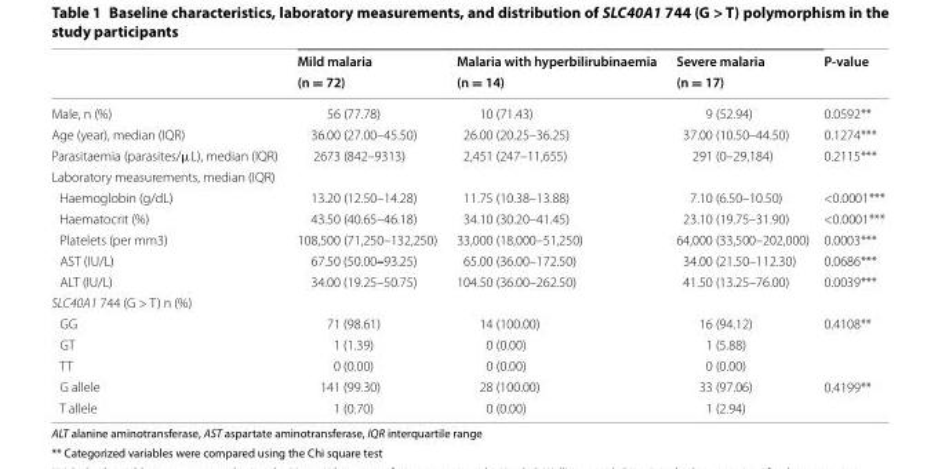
<table><thead><tr><td rowspan="2"></td><td rowspan="2">Mild malaria (n = 72)</td><td rowspan="2">Malaria with hyperbilirubinaemia (n = 14)</td><td rowspan="2">Severe malaria (n = 17)</td><td rowspan="2">P‑value</td></tr><tr></tr></thead><tbody><tr><td>Male, n (%)</td><td>56 (77.78)</td><td>10 (71.43)</td><td>9 (52.94)</td><td>0.0592**</td></tr><tr><td>Age (year), median (IQR)</td><td>36.00 (27.00–45.50)</td><td>26.00 (20.25–36.25)</td><td>37.00 (10.50–44.50)</td><td>0.1274***</td></tr><tr><td>Parasitaemia (parasites/μL), median (IQR)</td><td>2673 (842–9313)</td><td>2,451 (247–11,655)</td><td>291 (0–29,184)</td><td>0.2115***</td></tr><tr><td colspan="5">Laboratory measurements, median (IQR)</td></tr><tr><td>Haemoglobin (g/dL)</td><td>13.20 (12.50–14.28)</td><td>11.75 (10.38–13.88)</td><td>7.10 (6.50–10.50)</td><td>&lt;0.0001***</td></tr><tr><td>Haematocrit (%)</td><td>43.50 (40.65–46.18)</td><td>34.10 (30.20–41.45)</td><td>23.10 (19.75–31.90)</td><td>&lt;0.0001***</td></tr><tr><td>Platelets (per mm3)</td><td>108,500 (71,250–132,250)</td><td>33,000 (18,000–51,250)</td><td>64,000 (33,500–202,000)</td><td>0.0003***</td></tr><tr><td>AST (IU/L)</td><td>67.50 (50.00–93.25)</td><td>65.00 (36.00–172.50)</td><td>34.00 (21.50–112.30)</td><td>0.0686***</td></tr><tr><td>ALT (IU/L)</td><td>34.00 (19.25–50.75)</td><td>104.50 (36.00–262.50)</td><td>41.50 (13.25–76.00)</td><td>0.0039***</td></tr><tr><td colspan="5">SLC40A1 744 (G &gt; T) n (%)</td></tr><tr><td>GG</td><td>71 (98.61)</td><td>14 (100.00)</td><td>16 (94.12)</td><td rowspan="3">0.4108**</td></tr><tr><td>GT</td><td>1 (1.39)</td><td>0 (0.00)</td><td>1 (5.88)</td></tr><tr><td>TT</td><td>0 (0.00)</td><td>0 (0.00)</td><td>0 (0.00)</td></tr><tr><td>G allele</td><td>141 (99.30)</td><td>28 (100.00)</td><td>33 (97.06)</td><td rowspan="2">0.4199**</td></tr><tr><td>T allele</td><td>1 (0.70)</td><td>0 (0.00)</td><td>1 (2.94)</td></tr></tbody></table>